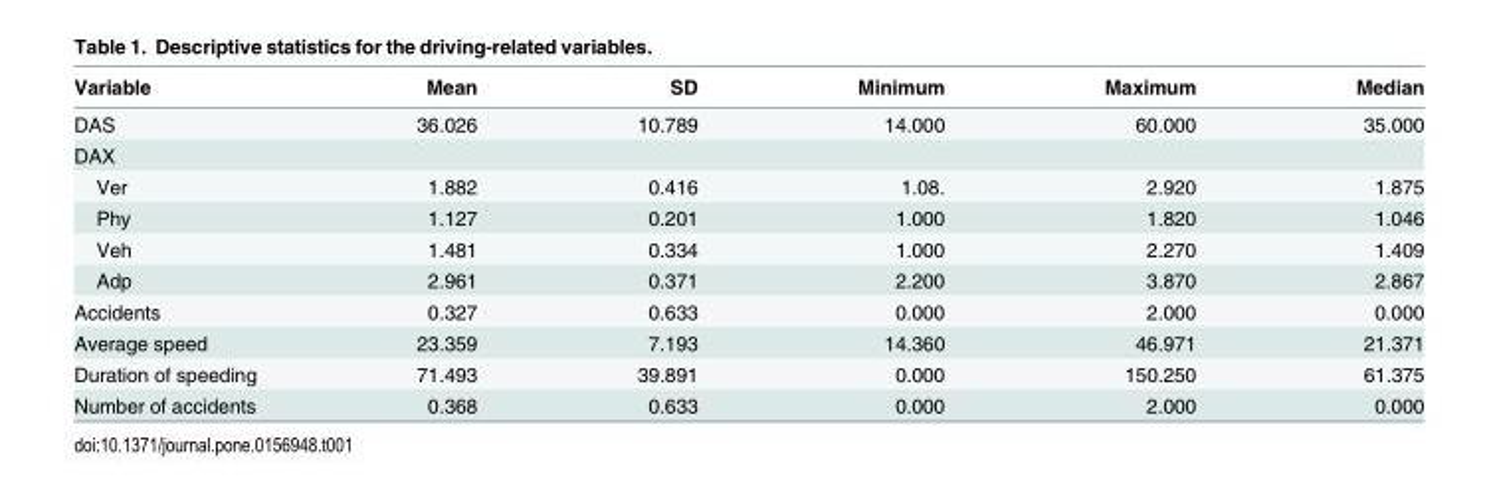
<table><thead><tr><td>Variable</td><td>Mean</td><td>SD</td><td>Minimum</td><td>Maximum</td><td>Median</td></tr></thead><tbody><tr><td>DAS</td><td>36.026</td><td>10.789</td><td>14.000</td><td>60.000</td><td>35.000</td></tr><tr><td colspan="6">DAX</td></tr><tr><td>Ver</td><td>1.882</td><td>0.416</td><td>1.08.</td><td>2.920</td><td>1.875</td></tr><tr><td>Phy</td><td>1.127</td><td>0.201</td><td>1.000</td><td>1.820</td><td>1.046</td></tr><tr><td>Veh</td><td>1.481</td><td>0.334</td><td>1.000</td><td>2.270</td><td>1.409</td></tr><tr><td>Adp</td><td>2.961</td><td>0.371</td><td>2.200</td><td>3.870</td><td>2.867</td></tr><tr><td>Accidents</td><td>0.327</td><td>0.633</td><td>0.000</td><td>2.000</td><td>0.000</td></tr><tr><td>Average speed</td><td>23.359</td><td>7.193</td><td>14.360</td><td>46.971</td><td>21.371</td></tr><tr><td>Duration of speeding</td><td>71.493</td><td>39.891</td><td>0.000</td><td>150.250</td><td>61.375</td></tr><tr><td>Number of accidents</td><td>0.368</td><td>0.633</td><td>0.000</td><td>2.000</td><td>0.000</td></tr></tbody></table>